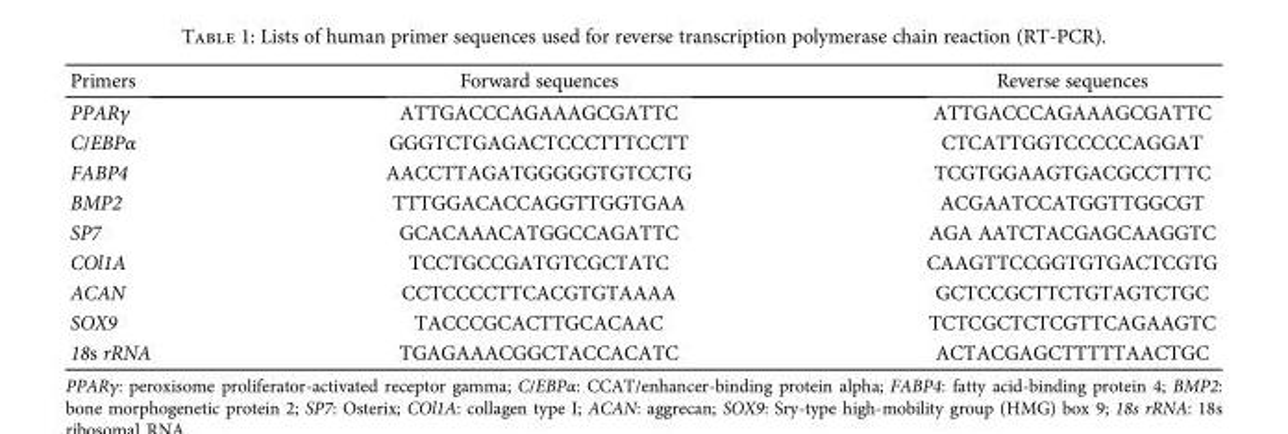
<table><thead><tr><td>Primers</td><td>Forward sequences</td><td>Reverse sequences</td></tr></thead><tbody><tr><td>PPARγ</td><td>ATTGACCCAGAAAGCGATTC</td><td>ATTGACCCAGAAAGCGATTC</td></tr><tr><td>C/EBPα</td><td>GGGTCTGAGACTCCCTTTCCTT</td><td>CTCATTGGTCCCCCAGGAT</td></tr><tr><td>FABP4</td><td>AACCTTAGATGGGGGTGTCCTG</td><td>TCGTGGAAGTGACGCCTTTC</td></tr><tr><td>BMP2</td><td>TTTGGACACCAGGTTGGTGAA</td><td>ACGAATCCATGGTTGGCGT</td></tr><tr><td>SP7</td><td>GCACAAACATGGCCAGATTC</td><td>AGA AATCTACGAGCAAGGTC</td></tr><tr><td>COl1A</td><td>TCCTGCCGATGTCGCTATC</td><td>CAAGTTCCGGTGTGACTCGTG</td></tr><tr><td>ACAN</td><td>CCTCCCCTTCACGTGTAAAA</td><td>GCTCCGCTTCTGTAGTCTGC</td></tr><tr><td>SOX9</td><td>TACCCGCACTTGCACAAC</td><td>TCTCGCTCTCGTTCAGAAGTC</td></tr><tr><td>18s rRNA</td><td>TGAGAAACGGCTACCACATC</td><td>ACTACGAGCTTTTTAACTGC</td></tr></tbody></table>